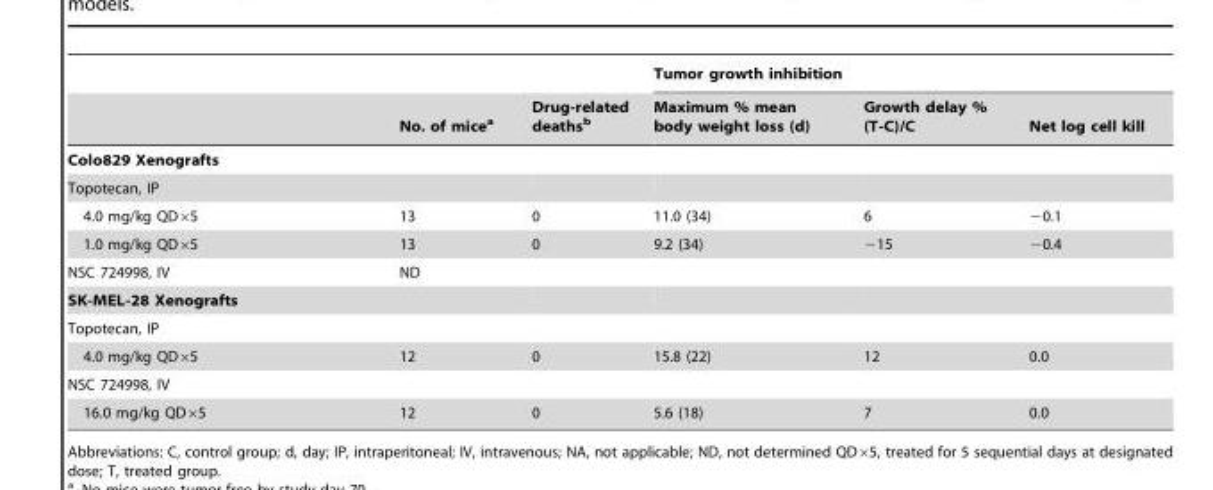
<table><thead><tr><td rowspan="2"></td><td rowspan="2">No. of mice<sup>a</sup></td><td rowspan="2">Drug-related deaths<sup>b</sup></td><td colspan="3">Tumor growth inhibition</td></tr><tr><td>Maximum % mean body weight loss (d)</td><td>Growth delay % (T-C)/C</td><td>Net log cell kill</td></tr></thead><tbody><tr><td colspan="6">Colo829 Xenografts</td></tr><tr><td colspan="6">Topotecan, IP</td></tr><tr><td>4.0 mg/kg QD×5</td><td>13</td><td>0</td><td>11.0 (34)</td><td>6</td><td>−0.1</td></tr><tr><td>1.0 mg/kg QD×5</td><td>13</td><td>0</td><td>9.2 (34)</td><td>−15</td><td>−0.4</td></tr><tr><td>NSC 724998, IV</td><td>ND</td><td></td><td></td><td></td><td></td></tr><tr><td colspan="6">SK-MEL-28 Xenografts</td></tr><tr><td colspan="6">Topotecan, IP</td></tr><tr><td>4.0 mg/kg QD×5</td><td>12</td><td>0</td><td>15.8 (22)</td><td>12</td><td>0.0</td></tr><tr><td colspan="6">NSC 724998, IV</td></tr><tr><td>16.0 mg/kg QD×5</td><td>12</td><td>0</td><td>5.6 (18)</td><td>7</td><td>0.0</td></tr></tbody></table>